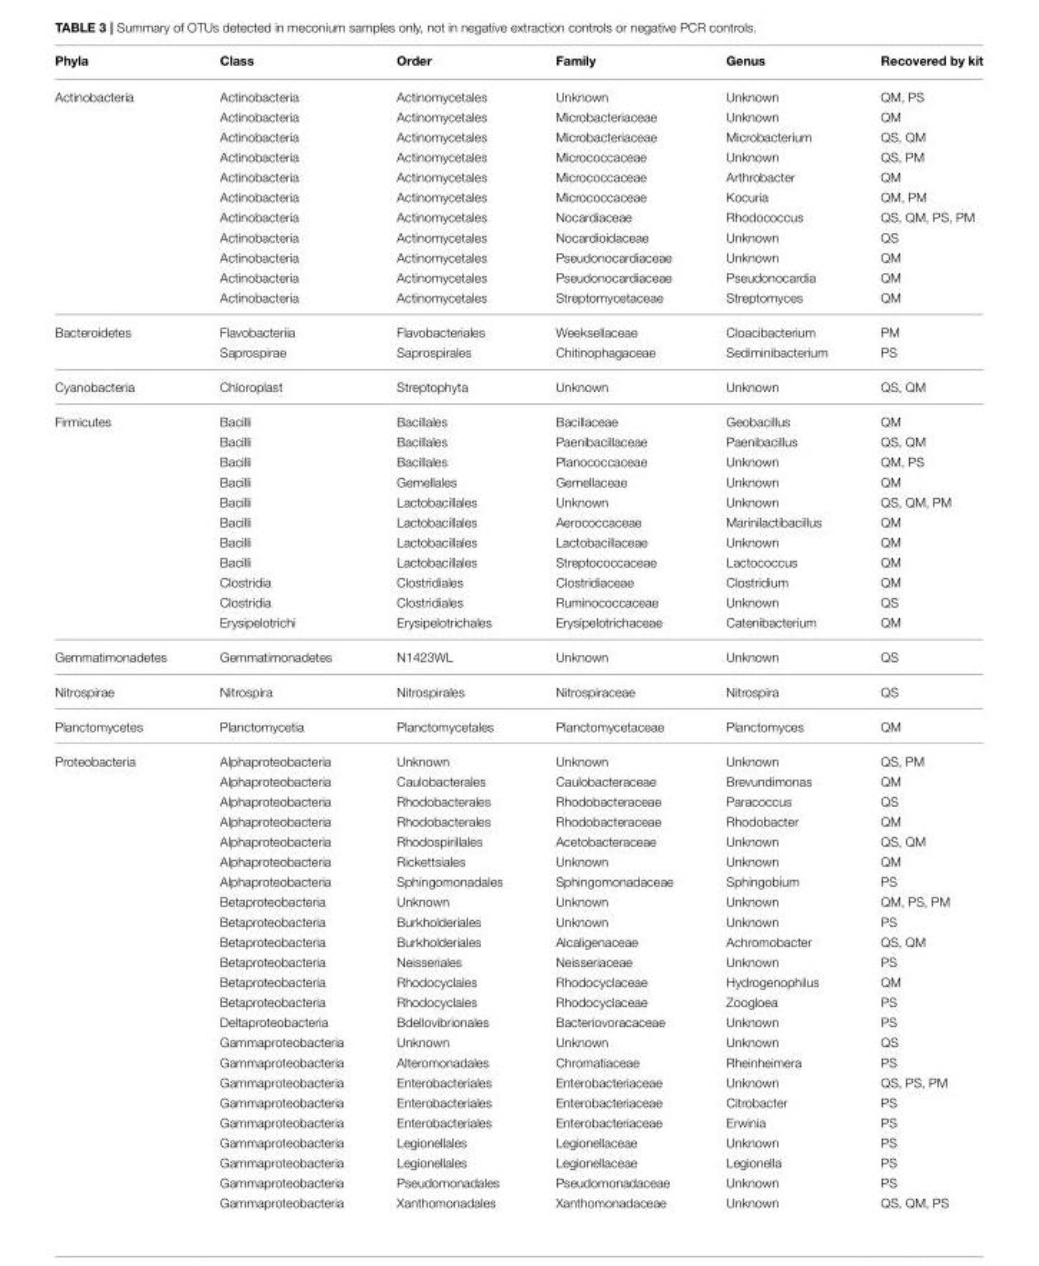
<table><thead><tr><td>Phyla</td><td>Class</td><td>Order</td><td>Family</td><td>Genus</td><td>Recovered by kit</td></tr></thead><tbody><tr><td rowspan="11">Actinobacteria</td><td>Actinobacteria</td><td>Actinomycetales</td><td>Unknown</td><td>Unknown</td><td>QM, PS</td></tr><tr><td>Actinobacteria</td><td>Actinomycetales</td><td>Microbacteriaceae</td><td>Unknown</td><td>QM</td></tr><tr><td>Actinobacteria</td><td>Actinomycetales</td><td>Microbacteriaceae</td><td>Microbacterium</td><td>QS, QM</td></tr><tr><td>Actinobacteria</td><td>Actinomycetales</td><td>Micrococcaceae</td><td>Unknown</td><td>QS, PM</td></tr><tr><td>Actinobacteria</td><td>Actinomycetales</td><td>Micrococcaceae</td><td>Arthrobacter</td><td>QM</td></tr><tr><td>Actinobacteria</td><td>Actinomycetales</td><td>Micrococcaceae</td><td>Kocuria</td><td>QM, PM</td></tr><tr><td>Actinobacteria</td><td>Actinomycetales</td><td>Nocardiaceae</td><td>Rhodococcus</td><td>QS, QM, PS, PM</td></tr><tr><td>Actinobacteria</td><td>Actinomycetales</td><td>Nocardioidaceae</td><td>Unknown</td><td>QS</td></tr><tr><td>Actinobacteria</td><td>Actinomycetales</td><td>Pseudonocardiaceae</td><td>Unknown</td><td>QM</td></tr><tr><td>Actinobacteria</td><td>Actinomycetales</td><td>Pseudonocardiaceae</td><td>Pseudonocardia</td><td>QM</td></tr><tr><td>Actinobacteria</td><td>Actinomycetales</td><td>Streptomycetaceae</td><td>Streptomyces</td><td>QM</td></tr><tr><td rowspan="2">Bacteroidetes</td><td>Flavobacteriia</td><td>Flavobacteriales</td><td>Weeksellaceae</td><td>Cloacibacterium</td><td>PM</td></tr><tr><td>Saprospirae</td><td>Saprospirales</td><td>Chitinophagaceae</td><td>Sediminibacterium</td><td>PS</td></tr><tr><td>Cyanobacteria</td><td>Chloroplast</td><td>Streptophyta</td><td>Unknown</td><td>Unknown</td><td>QS, QM</td></tr><tr><td rowspan="11">Firmicutes</td><td>Bacilli</td><td>Bacillales</td><td>Bacillaceae</td><td>Geobacillus</td><td>QM</td></tr><tr><td>Bacilli</td><td>Bacillales</td><td>Paenibacillaceae</td><td>Paenibacillus</td><td>QS, QM</td></tr><tr><td>Bacilli</td><td>Bacillales</td><td>Planococcaceae</td><td>Unknown</td><td>QM, PS</td></tr><tr><td>Bacilli</td><td>Gemellales</td><td>Gemellaceae</td><td>Unknown</td><td>QM</td></tr><tr><td>Bacilli</td><td>Lactobacillales</td><td>Unknown</td><td>Unknown</td><td>QS, QM, PM</td></tr><tr><td>Bacilli</td><td>Lactobacillales</td><td>Aerococcaceae</td><td>Marinilactibacillus</td><td>QM</td></tr><tr><td>Bacilli</td><td>Lactobacillales</td><td>Lactobacillaceae</td><td>Unknown</td><td>QM</td></tr><tr><td>Bacilli</td><td>Lactobacillales</td><td>Streptococcaceae</td><td>Lactococcus</td><td>QM</td></tr><tr><td>Clostridia</td><td>Clostridiales</td><td>Clostridiaceae</td><td>Clostridium</td><td>QM</td></tr><tr><td>Clostridia</td><td>Clostridiales</td><td>Ruminococcaceae</td><td>Unknown</td><td>QS</td></tr><tr><td>Erysipelotrichi</td><td>Erysipelotrichales</td><td>Erysipelotrichaceae</td><td>Catenibacterium</td><td>QM</td></tr><tr><td>Gemmatimonadetes</td><td>Gemmatimonadetes</td><td>N1423WL</td><td>Unknown</td><td>Unknown</td><td>QS</td></tr><tr><td>Nitrospirae</td><td>Nitrospira</td><td>Nitrospirales</td><td>Nitrospiraceae</td><td>Nitrospira</td><td>QS</td></tr><tr><td>Planctomycetes</td><td>Planctomycetia</td><td>Planctomycetales</td><td>Planctomycetaceae</td><td>Planctomyces</td><td>QM</td></tr><tr><td rowspan="23">Proteobacteria</td><td>Alphaproteobacteria</td><td>Unknown</td><td>Unknown</td><td>Unknown</td><td>QS, PM</td></tr><tr><td>Alphaproteobacteria</td><td>Caulobacterales</td><td>Caulobacteraceae</td><td>Brevundimonas</td><td>QM</td></tr><tr><td>Alphaproteobacteria</td><td>Rhodobacterales</td><td>Rhodobacteraceae</td><td>Paracoccus</td><td>QS</td></tr><tr><td>Alphaproteobacteria</td><td>Rhodobacterales</td><td>Rhodobacteraceae</td><td>Rhodobacter</td><td>QM</td></tr><tr><td>Alphaproteobacteria</td><td>Rhodospirillales</td><td>Acetobacteraceae</td><td>Unknown</td><td>QS, QM</td></tr><tr><td>Alphaproteobacteria</td><td>Rickettsiales</td><td>Unknown</td><td>Unknown</td><td>QM</td></tr><tr><td>Alphaproteobacteria</td><td>Sphingomonadales</td><td>Sphingomonadaceae</td><td>Sphingobium</td><td>PS</td></tr><tr><td>Betaproteobacteria</td><td>Unknown</td><td>Unknown</td><td>Unknown</td><td>QM, PS, PM</td></tr><tr><td>Betaproteobacteria</td><td>Burkholderiales</td><td>Unknown</td><td>Unknown</td><td>PS</td></tr><tr><td>Betaproteobacteria</td><td>Burkholderiales</td><td>Alcaligenaceae</td><td>Achromobacter</td><td>QS, QM</td></tr><tr><td>Betaproteobacteria</td><td>Neisseriales</td><td>Neisseriaceae</td><td>Unknown</td><td>PS</td></tr><tr><td>Betaproteobacteria</td><td>Rhodocyclales</td><td>Rhodocyclaceae</td><td>Hydrogenophilus</td><td>QM</td></tr><tr><td>Betaproteobacteria</td><td>Rhodocyclales</td><td>Rhodocyclaceae</td><td>Zoogloea</td><td>PS</td></tr><tr><td>Deltaproteobacteria</td><td>Bdellovibrionales</td><td>Bacteriovoracaceae</td><td>Unknown</td><td>PS</td></tr><tr><td>Gammaproteobacteria</td><td>Unknown</td><td>Unknown</td><td>Unknown</td><td>QS</td></tr><tr><td>Gammaproteobacteria</td><td>Alteromonadales</td><td>Chromatiaceae</td><td>Rheinheimera</td><td>PS</td></tr><tr><td>Gammaproteobacteria</td><td>Enterobacteriales</td><td>Enterobacteriaceae</td><td>Unknown</td><td>QS, PS, PM</td></tr><tr><td>Gammaproteobacteria</td><td>Enterobacteriales</td><td>Enterobacteriaceae</td><td>Citrobacter</td><td>PS</td></tr><tr><td>Gammaproteobacteria</td><td>Enterobacteriales</td><td>Enterobacteriaceae</td><td>Erwinia</td><td>PS</td></tr><tr><td>Gammaproteobacteria</td><td>Legionellales</td><td>Legionellaceae</td><td>Unknown</td><td>PS</td></tr><tr><td>Gammaproteobacteria</td><td>Legionellales</td><td>Legionellaceae</td><td>Legionella</td><td>PS</td></tr><tr><td>Gammaproteobacteria</td><td>Pseudomonadales</td><td>Pseudomonadaceae</td><td>Unknown</td><td>PS</td></tr><tr><td>Gammaproteobacteria</td><td>Xanthomonadales</td><td>Xanthomonadaceae</td><td>Unknown</td><td>QS, QM, PS</td></tr></tbody></table>